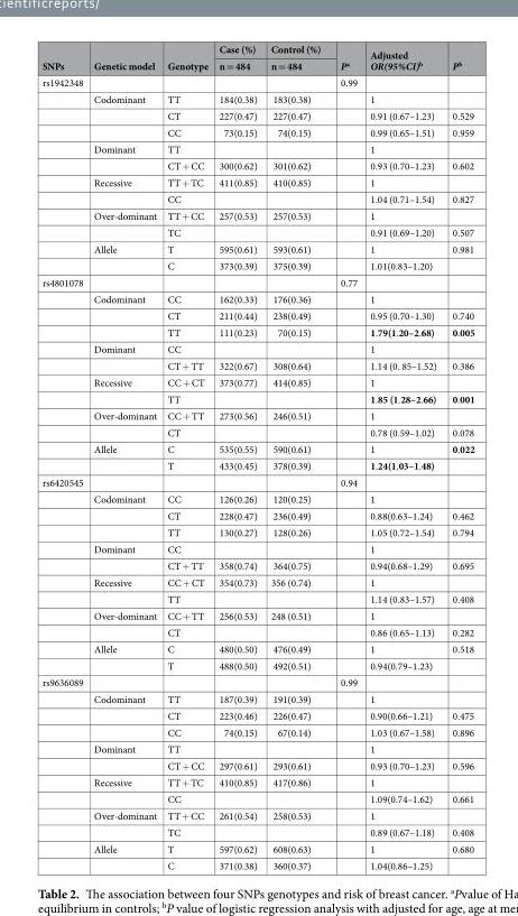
<table><thead><tr><td rowspan="2">SNPs</td><td rowspan="2">Genetic model</td><td rowspan="2">Genotype</td><td rowspan="2">Case (%) n = 484</td><td rowspan="2">Control (%) n = 484</td><td rowspan="2">P<sup>a</sup></td><td rowspan="2">Adjusted OR(95%CI)<sup>b</sup></td><td rowspan="2">P<sup>b</sup></td></tr><tr></tr></thead><tbody><tr><td rowspan="12">rs1942348</td><td></td><td></td><td></td><td></td><td>0.99</td><td></td><td></td></tr><tr><td>Codominant</td><td>TT</td><td>184(0.38)</td><td>183(0.38)</td><td></td><td>1</td><td></td></tr><tr><td></td><td>CT</td><td>227(0.47)</td><td>227(0.47)</td><td></td><td>0.91 (0.67–1.23)</td><td>0.529</td></tr><tr><td></td><td>CC</td><td>73(0.15)</td><td>74(0.15)</td><td></td><td>0.99 (0.65–1.51)</td><td>0.959</td></tr><tr><td>Dominant</td><td>TT</td><td></td><td></td><td></td><td>1</td><td></td></tr><tr><td></td><td>CT + CC</td><td>300(0.62)</td><td>301(0.62)</td><td></td><td>0.93 (0.70–1.23)</td><td>0.602</td></tr><tr><td>Recessive</td><td>TT + TC</td><td>411(0.85)</td><td>410(0.85)</td><td></td><td>1</td><td></td></tr><tr><td></td><td>CC</td><td></td><td></td><td></td><td>1.04 (0.71–1.54)</td><td>0.827</td></tr><tr><td>Over-dominant</td><td>TT + CC</td><td>257(0.53)</td><td>257(0.53)</td><td></td><td>1</td><td></td></tr><tr><td></td><td>TC</td><td></td><td></td><td></td><td>0.91 (0.69–1.20)</td><td>0.507</td></tr><tr><td>Allele</td><td>T</td><td>595(0.61)</td><td>593(0.61)</td><td></td><td>1</td><td>0.981</td></tr><tr><td></td><td>C</td><td>373(0.39)</td><td>375(0.39)</td><td></td><td>1.01(0.83–1.20)</td><td></td></tr><tr><td rowspan="12">rs4801078</td><td></td><td></td><td></td><td></td><td>0.77</td><td></td><td></td></tr><tr><td>Codominant</td><td>CC</td><td>162(0.33)</td><td>176(0.36)</td><td></td><td>1</td><td></td></tr><tr><td></td><td>CT</td><td>211(0.44)</td><td>238(0.49)</td><td></td><td>0.95 (0.70–1.30)</td><td>0.740</td></tr><tr><td></td><td>TT</td><td>111(0.23)</td><td>70(0.15)</td><td></td><td>1.79(1.20–2.68)</td><td>0.005</td></tr><tr><td>Dominant</td><td>CC</td><td></td><td></td><td></td><td>1</td><td></td></tr><tr><td></td><td>CT + TT</td><td>322(0.67)</td><td>308(0.64)</td><td></td><td>1.14 (0. 85–1.52)</td><td>0.386</td></tr><tr><td>Recessive</td><td>CC + CT</td><td>373(0.77)</td><td>414(0.85)</td><td></td><td>1</td><td></td></tr><tr><td></td><td>TT</td><td></td><td></td><td></td><td>1.85 (1.28–2.66)</td><td>0.001</td></tr><tr><td>Over-dominant</td><td>CC + TT</td><td>273(0.56)</td><td>246(0.51)</td><td></td><td>1</td><td></td></tr><tr><td></td><td>CT</td><td></td><td></td><td></td><td>0.78 (0.59–1.02)</td><td>0.078</td></tr><tr><td>Allele</td><td>C</td><td>535(0.55)</td><td>590(0.61)</td><td></td><td>1</td><td>0.022</td></tr><tr><td></td><td>T</td><td>433(0.45)</td><td>378(0.39)</td><td></td><td>1.24(1.03–1.48)</td><td></td></tr><tr><td rowspan="12">rs6420545</td><td></td><td></td><td></td><td></td><td>0.94</td><td></td><td></td></tr><tr><td>Codominant</td><td>CC</td><td>126(0.26)</td><td>120(0.25)</td><td></td><td>1</td><td></td></tr><tr><td></td><td>CT</td><td>228(0.47)</td><td>236(0.49)</td><td></td><td>0.88(0.63–1.24)</td><td>0.462</td></tr><tr><td></td><td>TT</td><td>130(0.27)</td><td>128(0.26)</td><td></td><td>1.05 (0.72–1.54)</td><td>0.794</td></tr><tr><td>Dominant</td><td>CC</td><td></td><td></td><td></td><td>1</td><td></td></tr><tr><td></td><td>CT + TT</td><td>358(0.74)</td><td>364(0.75)</td><td></td><td>0.94(0.68–1.29)</td><td>0.695</td></tr><tr><td>Recessive</td><td>CC + CT</td><td>354(0.73)</td><td>356 (0.74)</td><td></td><td>1</td><td></td></tr><tr><td></td><td>TT</td><td></td><td></td><td></td><td>1.14 (0.83–1.57)</td><td>0.408</td></tr><tr><td>Over-dominant</td><td>CC + TT</td><td>256(0.53)</td><td>248 (0.51)</td><td></td><td>1</td><td></td></tr><tr><td></td><td>CT</td><td></td><td></td><td></td><td>0.86 (0.65–1.13)</td><td>0.282</td></tr><tr><td>Allele</td><td>C</td><td>480(0.50)</td><td>476(0.49)</td><td></td><td>1</td><td>0.518</td></tr><tr><td></td><td>T</td><td>488(0.50)</td><td>492(0.51)</td><td></td><td>0.94(0.79–1.23)</td><td></td></tr><tr><td rowspan="12">rs9636089</td><td></td><td></td><td></td><td></td><td>0.99</td><td></td><td></td></tr><tr><td>Codominant</td><td>TT</td><td>187(0.39)</td><td>191(0.39)</td><td></td><td>1</td><td></td></tr><tr><td></td><td>CT</td><td>223(0.46)</td><td>226(0.47)</td><td></td><td>0.90(0.66–1.21)</td><td>0.475</td></tr><tr><td></td><td>CC</td><td>74(0.15)</td><td>67(0.14)</td><td></td><td>1.03 (0.67–1.58)</td><td>0.896</td></tr><tr><td>Dominant</td><td>TT</td><td></td><td></td><td></td><td>1</td><td></td></tr><tr><td></td><td>CT + CC</td><td>297(0.61)</td><td>293(0.61)</td><td></td><td>0.93 (0.70–1.23)</td><td>0.596</td></tr><tr><td>Recessive</td><td>TT + TC</td><td>410(0.85)</td><td>417(0.86)</td><td></td><td>1</td><td></td></tr><tr><td></td><td>CC</td><td></td><td></td><td></td><td>1.09(0.74–1.62)</td><td>0.661</td></tr><tr><td>Over-dominant</td><td>TT + CC</td><td>261(0.54)</td><td>258(0.53)</td><td></td><td>1</td><td></td></tr><tr><td></td><td>TC</td><td></td><td></td><td></td><td>0.89 (0.67–1.18)</td><td>0.408</td></tr><tr><td>Allele</td><td>T</td><td>597(0.62)</td><td>608(0.63)</td><td></td><td>1</td><td>0.680</td></tr><tr><td></td><td>C</td><td>371(0.38)</td><td>360(0.37)</td><td></td><td>1.04(0.86–1.25)</td><td></td></tr></tbody></table>